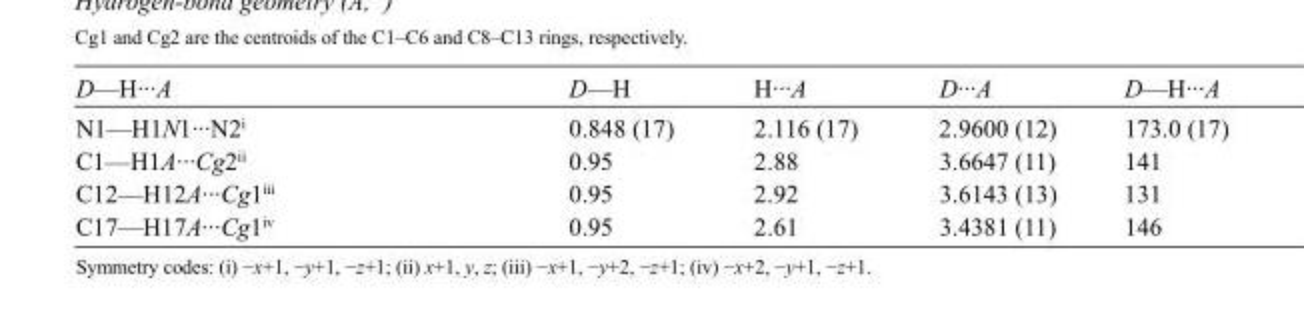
<table><tbody><tr><td>D—H···A</td><td>D—H</td><td>H···A</td><td>D···A</td><td>D—H···A</td></tr><tr><td>N1—H1N1···N2<sup>i</sup></td><td>0.848 (17)</td><td>2.116 (17)</td><td>2.9600 (12)</td><td>173.0 (17)</td></tr><tr><td>C1—H1A···Cg2<sup>ii</sup></td><td>0.95</td><td>2.88</td><td>3.6647 (11)</td><td>141</td></tr><tr><td>C12—H12A···Cg1<sup>iii</sup></td><td>0.95</td><td>2.92</td><td>3.6143 (13)</td><td>131</td></tr><tr><td>C17—H17A···Cg1<sup>iv</sup></td><td>0.95</td><td>2.61</td><td>3.4381 (11)</td><td>146</td></tr></tbody></table>